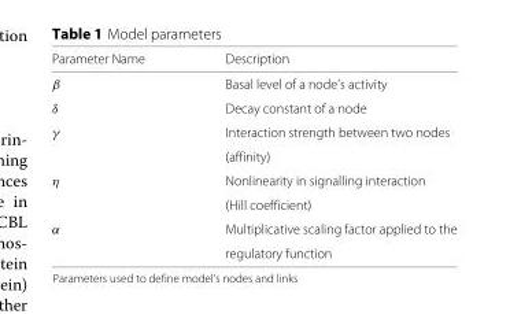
<table><thead><tr><td>Parameter Name</td><td>Description</td></tr></thead><tbody><tr><td>β</td><td>Basal level of a node’s activity</td></tr><tr><td>δ</td><td>Decay constant of a node</td></tr><tr><td rowspan="2">γ</td><td>Interaction strength between two nodes</td></tr><tr><td>(affinity)</td></tr><tr><td rowspan="2">η</td><td>Nonlinearity in signalling interaction</td></tr><tr><td>(Hill coefficient)</td></tr><tr><td rowspan="2">α</td><td>Multiplicative scaling factor applied to the</td></tr><tr><td>regulatory function</td></tr></tbody></table>